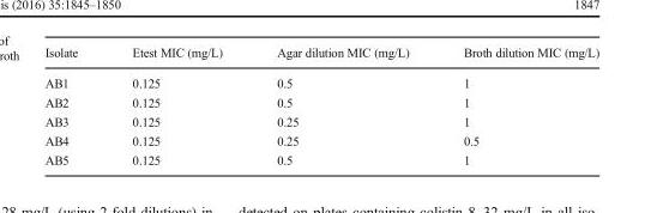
<table><thead><tr><td>Isolate</td><td>Etest MIC (mg/L)</td><td>Agar dilution MIC (mg/L)</td><td>Broth dilution MIC (mg/L)</td></tr></thead><tbody><tr><td>AB1</td><td>0.125</td><td>0.5</td><td>1</td></tr><tr><td>AB2</td><td>0.125</td><td>0.5</td><td>1</td></tr><tr><td>AB3</td><td>0.125</td><td>0.25</td><td>1</td></tr><tr><td>AB4</td><td>0.125</td><td>0.25</td><td>0.5</td></tr><tr><td>AB5</td><td>0.125</td><td>0.5</td><td>1</td></tr></tbody></table>